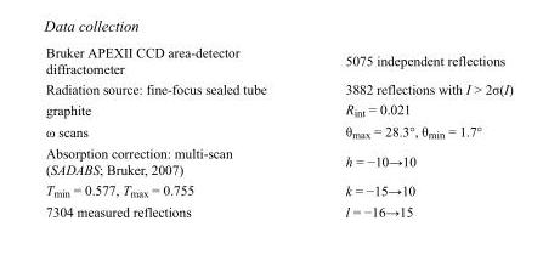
<table><tbody><tr><td>Bruker APEXII CCD area-detector diffractometer</td><td>5075 independent reflections</td></tr><tr><td>Radiation source: fine-focus sealed tube</td><td>3882 reflections with I &gt; 2σ(I)</td></tr><tr><td>graphite</td><td>R<sub>int</sub> = 0.021</td></tr><tr><td>ω scans</td><td>θ<sub>max</sub> = 28.3°, θ<sub>min</sub> = 1.7°</td></tr><tr><td>Absorption correction: multi-scan (SADABS; Bruker, 2007)</td><td>h = −10→10</td></tr><tr><td>T<sub>min</sub> = 0.577, T<sub>max</sub> = 0.755</td><td>k = −15→10</td></tr><tr><td>7304 measured reflections</td><td>l = −16→15</td></tr></tbody></table>